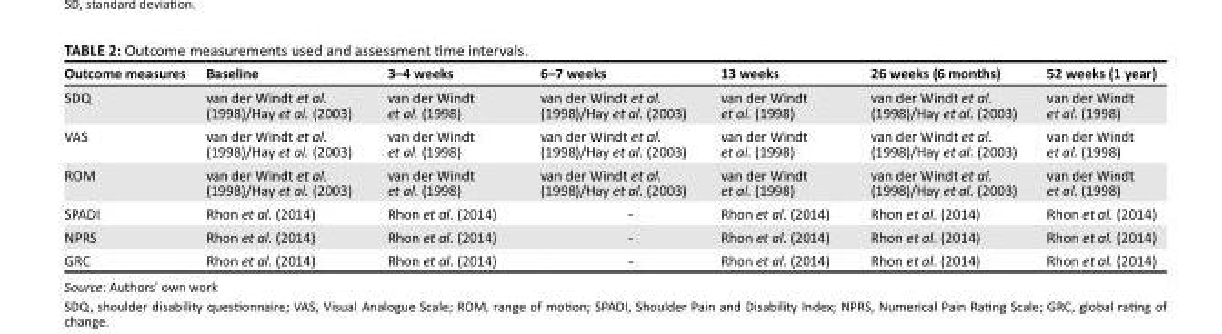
<table><thead><tr><td>Outcome measures</td><td>Baseline</td><td>3–4 weeks</td><td>6–7 weeks</td><td>13 weeks</td><td>26 weeks (6 months)</td><td>52 weeks (1 year)</td></tr></thead><tbody><tr><td>SDQ</td><td>van der Windt et al. (1998)/Hay et al. (2003)</td><td>van der Windt et al. (1998)</td><td>van der Windt et al. (1998)/Hay et al. (2003)</td><td>van der Windt et al. (1998)</td><td>van der Windt et al. (1998)/Hay et al. (2003)</td><td>van der Windt et al. (1998)</td></tr><tr><td>VAS</td><td>van der Windt et al. (1998)/Hay et al. (2003)</td><td>van der Windt et al. (1998)</td><td>van der Windt et al. (1998)/Hay et al. (2003)</td><td>van der Windt et al. (1998)</td><td>van der Windt et al. (1998)/Hay et al. (2003)</td><td>van der Windt et al. (1998)</td></tr><tr><td>ROM</td><td>van der Windt et al. (1998)/Hay et al. (2003)</td><td>van der Windt et al. (1998)</td><td>van der Windt et al. (1998)/Hay et al. (2003)</td><td>van der Windt et al. (1998)</td><td>van der Windt et al. (1998)/Hay et al. (2003)</td><td>van der Windt et al. (1998)</td></tr><tr><td>SPADI</td><td>Rhon et al. (2014)</td><td>Rhon et al. (2014)</td><td>-</td><td>Rhon et al. (2014)</td><td>Rhon et al. (2014)</td><td>Rhon et al. (2014)</td></tr><tr><td>NPRS</td><td>Rhon et al. (2014)</td><td>Rhon et al. (2014)</td><td>-</td><td>Rhon et al. (2014)</td><td>Rhon et al. (2014)</td><td>Rhon et al. (2014)</td></tr><tr><td>GRC</td><td>Rhon et al. (2014)</td><td>Rhon et al. (2014)</td><td>-</td><td>Rhon et al. (2014)</td><td>Rhon et al. (2014)</td><td>Rhon et al. (2014)</td></tr></tbody></table>